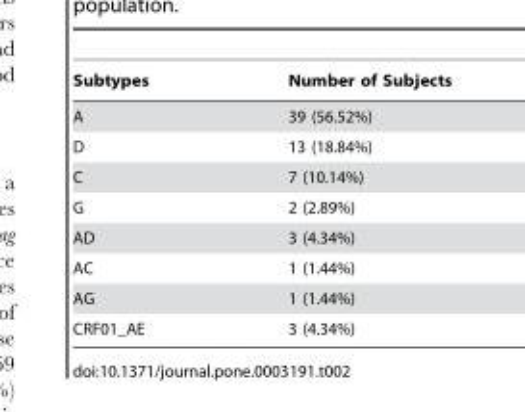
<table><thead><tr><td>Subtypes</td><td>Number of Subjects</td></tr></thead><tbody><tr><td>A</td><td>39 (56.52%)</td></tr><tr><td>D</td><td>13 (18.84%)</td></tr><tr><td>C</td><td>7 (10.14%)</td></tr><tr><td>G</td><td>2 (2.89%)</td></tr><tr><td>AD</td><td>3 (4.34%)</td></tr><tr><td>AC</td><td>1 (1.44%)</td></tr><tr><td>AG</td><td>1 (1.44%)</td></tr><tr><td>CRF01_AE</td><td>3 (4.34%)</td></tr></tbody></table>